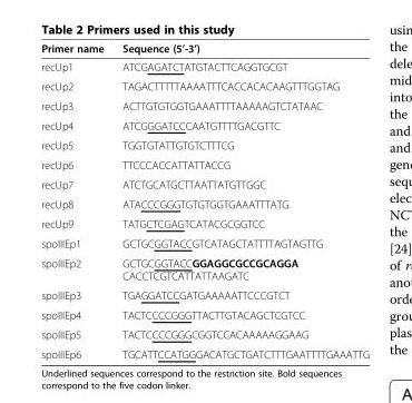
<table><thead><tr><td>Primer name</td><td>Sequence (5’-3’)</td></tr></thead><tbody><tr><td>recUp1</td><td>ATCGAGATCTATGTACTTCAGGTGCGT</td></tr><tr><td>recUp2</td><td>TAGACTTTTTAAAATTTCACCACACAAGTTTGGTAG</td></tr><tr><td>recUp3</td><td>ACTTGTGTGGTGAAATTTTAAAAAGTCTATAAC</td></tr><tr><td>recUp4</td><td>ATCGGGATCCCAATGTTTTGACGTTC</td></tr><tr><td>recUp5</td><td>TGGTGTATTGTGTCTTTCG</td></tr><tr><td>recUp6</td><td>TTCCCACCATTATTACCG</td></tr><tr><td>recUp7</td><td>ATCTGCATGCTTAATTATGTTGGC</td></tr><tr><td>recUp8</td><td>ATACCCGGGTGTGTGGTGAAATTTATG</td></tr><tr><td>recUp9</td><td>TATGCTCGAGTCATACGCGGTCC</td></tr><tr><td>spoIIIEp1</td><td>GCTGCGGTACCGTCATAGCTATTTTAGTAGTTG</td></tr><tr><td>spoIIIEp2</td><td>GCTGCGGTACCGGAGGCGCCGCAGGA CACCTCGTCATTATTAAGATC</td></tr><tr><td>spoIIIEp3</td><td>TGAGGATCCGATGAAAAATTCCCGTCT</td></tr><tr><td>spoIIIEp4</td><td>TACTCCCCGGGTTACTTGTACAGCTCGTCC</td></tr><tr><td>spoIIIEp5</td><td>TACTCCCCGGGCGGTCCACAAAAAGGAAG</td></tr><tr><td>spoIIIEp6</td><td>TGCATTCCATGGGACATGCTGATCTTTGAATTTTGAAATTG</td></tr></tbody></table>